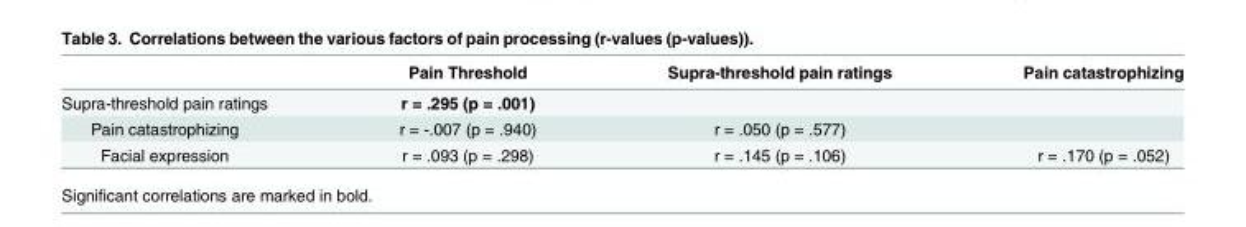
<table><thead><tr><td></td><td>Pain Threshold</td><td>Supra-threshold pain ratings</td><td>Pain catastrophizing</td></tr></thead><tbody><tr><td>Supra-threshold pain ratings</td><td>r = .295 (p = .001)</td><td></td><td></td></tr><tr><td>Pain catastrophizing</td><td>r = -.007 (p = .940)</td><td>r = .050 (p = .577)</td><td></td></tr><tr><td>Facial expression</td><td>r = .093 (p = .298)</td><td>r = .145 (p = .106)</td><td>r = .170 (p = .052)</td></tr></tbody></table>